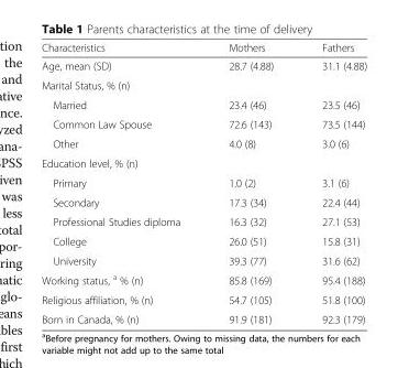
<table><thead><tr><td>Characteristics</td><td>Mothers</td><td>Fathers</td></tr></thead><tbody><tr><td>Age, mean (SD)</td><td>28.7 (4.88)</td><td>31.1 (4.88)</td></tr><tr><td colspan="3">Marital Status, % (n)</td></tr><tr><td>Married</td><td>23.4 (46)</td><td>23.5 (46)</td></tr><tr><td>Common Law Spouse</td><td>72.6 (143)</td><td>73.5 (144)</td></tr><tr><td>Other</td><td>4.0 (8)</td><td>3.0 (6)</td></tr><tr><td colspan="3">Education level, % (n)</td></tr><tr><td>Primary</td><td>1.0 (2)</td><td>3.1 (6)</td></tr><tr><td>Secondary</td><td>17.3 (34)</td><td>22.4 (44)</td></tr><tr><td>Professional Studies diploma</td><td>16.3 (32)</td><td>27.1 (53)</td></tr><tr><td>College</td><td>26.0 (51)</td><td>15.8 (31)</td></tr><tr><td>University</td><td>39.3 (77)</td><td>31.6 (62)</td></tr><tr><td>Working status, <sup>a</sup> % (n)</td><td>85.8 (169)</td><td>95.4 (188)</td></tr><tr><td>Religious affiliation, % (n)</td><td>54.7 (105)</td><td>51.8 (100)</td></tr><tr><td>Born in Canada, % (n)</td><td>91.9 (181)</td><td>92.3 (179)</td></tr></tbody></table>